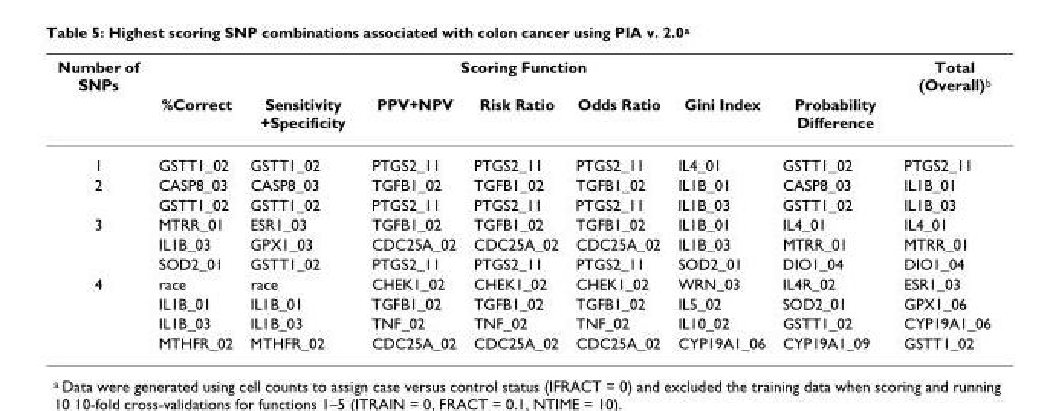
<table><thead><tr><td rowspan="2">Number of SNPs</td><td colspan="7">Scoring Function</td><td rowspan="2">Total (Overall)<sup>b</sup></td></tr><tr><td>%Correct</td><td>Sensitivity +Specificity</td><td>PPV+NPV</td><td>Risk Ratio</td><td>Odds Ratio</td><td>Gini Index</td><td>Probability Difference</td></tr></thead><tbody><tr><td>1</td><td>GSTT1_02</td><td>GSTT1_02</td><td>PTGS2_11</td><td>PTGS2_11</td><td>PTGS2_11</td><td>IL4_01</td><td>GSTT1_02</td><td>PTGS2_11</td></tr><tr><td rowspan="2">2</td><td>CASP8_03</td><td>CASP8_03</td><td>TGFB1_02</td><td>TGFB1_02</td><td>TGFB1_02</td><td>IL1B_01</td><td>CASP8_03</td><td>IL1B_01</td></tr><tr><td>GSTT1_02</td><td>GSTT1_02</td><td>PTGS2_11</td><td>PTGS2_11</td><td>PTGS2_11</td><td>IL1B_03</td><td>GSTT1_02</td><td>IL1B_03</td></tr><tr><td rowspan="3">3</td><td>MTRR_01</td><td>ESR1_03</td><td>TGFB1_02</td><td>TGFB1_02</td><td>TGFB1_02</td><td>IL1B_01</td><td>IL4_01</td><td>IL4_01</td></tr><tr><td>IL1B_03</td><td>GPX1_03</td><td>CDC25A_02</td><td>CDC25A_02</td><td>CDC25A_02</td><td>IL1B_03</td><td>MTRR_01</td><td>MTRR_01</td></tr><tr><td>SOD2_01</td><td>GSTT1_02</td><td>PTGS2_11</td><td>PTGS2_11</td><td>PTGS2_11</td><td>SOD2_01</td><td>DIO1_04</td><td>DIO1_04</td></tr><tr><td rowspan="4">4</td><td>race</td><td>race</td><td>CHEK1_02</td><td>CHEK1_02</td><td>CHEK1_02</td><td>WRN_03</td><td>IL4R_02</td><td>ESR1_03</td></tr><tr><td>IL1B_01</td><td>IL1B_01</td><td>TGFB1_02</td><td>TGFB1_02</td><td>TGFB1_02</td><td>IL5_02</td><td>SOD2_01</td><td>GPX1_06</td></tr><tr><td>IL1B_03</td><td>IL1B_03</td><td>TNF_02</td><td>TNF_02</td><td>TNF_02</td><td>IL10_02</td><td>GSTT1_02</td><td>CYP19A1_06</td></tr><tr><td>MTHFR_02</td><td>MTHFR_02</td><td>CDC25A_02</td><td>CDC25A_02</td><td>CDC25A_02</td><td>CYP19A1_06</td><td>CYP19A1_09</td><td>GSTT1_02</td></tr></tbody></table>